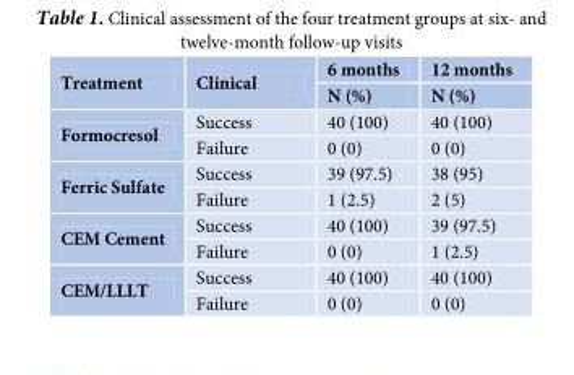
<table><thead><tr><td rowspan="2">Treatment</td><td rowspan="2">Clinical</td><td rowspan="2">6 months N (%)</td><td rowspan="2">12 months N (%)</td></tr><tr></tr></thead><tbody><tr><td rowspan="2">Formocresol</td><td>Success</td><td>40 (100)</td><td>40 (100)</td></tr><tr><td>Failure</td><td>0 (0)</td><td>0 (0)</td></tr><tr><td rowspan="2">Ferric Sulfate</td><td>Success</td><td>39 (97.5)</td><td>38 (95)</td></tr><tr><td>Failure</td><td>1 (2.5)</td><td>2 (5)</td></tr><tr><td rowspan="2">CEM Cement</td><td>Success</td><td>40 (100)</td><td>39 (97.5)</td></tr><tr><td>Failure</td><td>0 (0)</td><td>1 (2.5)</td></tr><tr><td rowspan="2">CEM/LLLT</td><td>Success</td><td>40 (100)</td><td>40 (100)</td></tr><tr><td>Failure</td><td>0 (0)</td><td>0 (0)</td></tr></tbody></table>